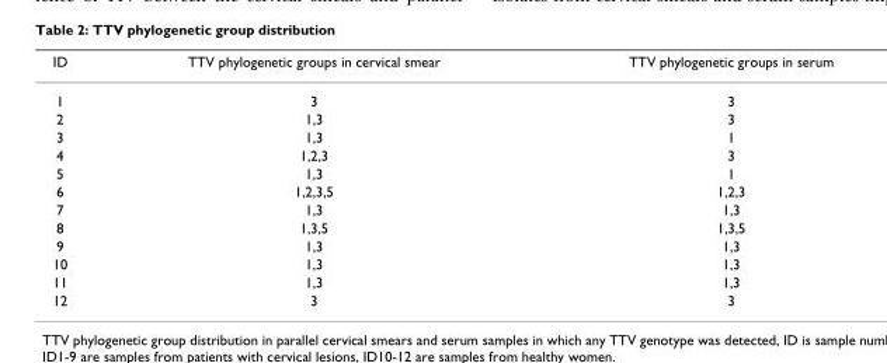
<table><thead><tr><td>ID</td><td>TTV phylogenetic groups in cervical smear</td><td>TTV phylogenetic groups in serum</td></tr></thead><tbody><tr><td>1</td><td>3</td><td>3</td></tr><tr><td>2</td><td>1,3</td><td>3</td></tr><tr><td>3</td><td>1,3</td><td>1</td></tr><tr><td>4</td><td>1,2,3</td><td>3</td></tr><tr><td>5</td><td>1,3</td><td>1</td></tr><tr><td>6</td><td>1,2,3,5</td><td>1,2,3</td></tr><tr><td>7</td><td>1,3</td><td>1,3</td></tr><tr><td>8</td><td>1,3,5</td><td>1,3,5</td></tr><tr><td>9</td><td>1,3</td><td>1,3</td></tr><tr><td>10</td><td>1,3</td><td>1,3</td></tr><tr><td>11</td><td>1,3</td><td>1,3</td></tr><tr><td>12</td><td>3</td><td>3</td></tr></tbody></table>